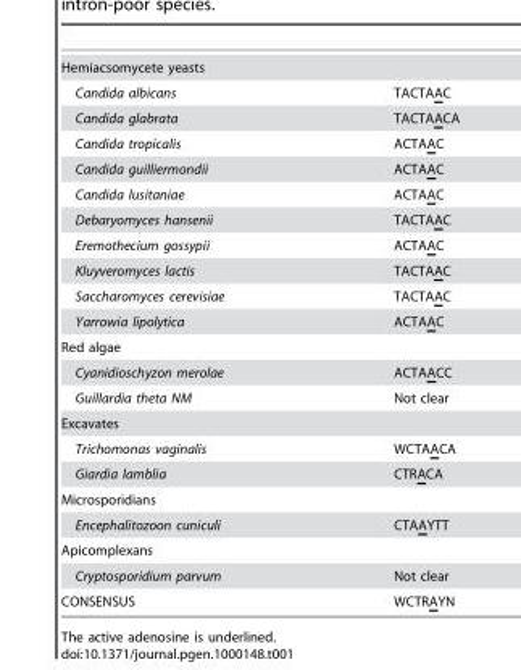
<table><tbody><tr><td colspan="2">Hemiacsomycete yeasts</td></tr><tr><td>Candida albicans</td><td>TACTAAC</td></tr><tr><td>Candida glabrata</td><td>TACTAACA</td></tr><tr><td>Candida tropicalis</td><td>ACTAAC</td></tr><tr><td>Candida guilliermondii</td><td>ACTAAC</td></tr><tr><td>Candida lusitaniae</td><td>ACTAAC</td></tr><tr><td>Debaryomyces hansenii</td><td>TACTAAC</td></tr><tr><td>Eremothecium gossypii</td><td>ACTAAC</td></tr><tr><td>Kluyveromyces lactis</td><td>TACTAAC</td></tr><tr><td>Saccharomyces cerevisiae</td><td>TACTAAC</td></tr><tr><td>Yarrowia lipolytica</td><td>ACTAAC</td></tr><tr><td colspan="2">Red algae</td></tr><tr><td>Cyanidioschyzon merolae</td><td>ACTAACC</td></tr><tr><td>Guillardia theta NM</td><td>Not clear</td></tr><tr><td colspan="2">Excavates</td></tr><tr><td>Trichomonas vaginalis</td><td>WCTAACA</td></tr><tr><td>Giardia lamblia</td><td>CTRACA</td></tr><tr><td colspan="2">Microsporidians</td></tr><tr><td>Encephalitozoon cuniculi</td><td>CTAAYTT</td></tr><tr><td colspan="2">Apicomplexans</td></tr><tr><td>Cryptosporidium parvum</td><td>Not clear</td></tr><tr><td>CONSENSUS</td><td>WCTRAYN</td></tr></tbody></table>